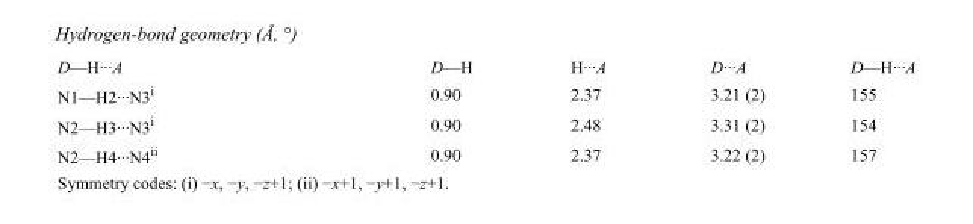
<table><tbody><tr><td>D—H···A</td><td>D—H</td><td>H···A</td><td>D···A</td><td>D—H···A</td></tr><tr><td>N1—H2···N3<sup>i</sup></td><td>0.90</td><td>2.37</td><td>3.21 (2)</td><td>155</td></tr><tr><td>N2—H3···N3<sup>i</sup></td><td>0.90</td><td>2.48</td><td>3.31 (2)</td><td>154</td></tr><tr><td>N2—H4···N4<sup>ii</sup></td><td>0.90</td><td>2.37</td><td>3.22 (2)</td><td>157</td></tr></tbody></table>